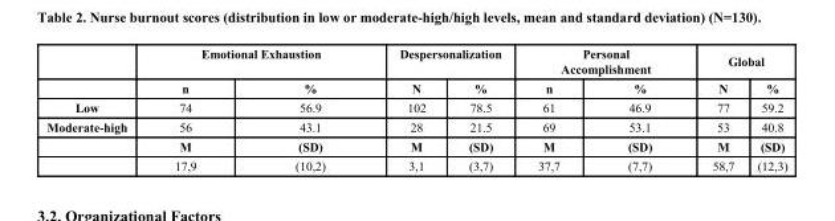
<table><thead><tr><td rowspan="2"></td><td colspan="2">Emotional Exhaustion</td><td colspan="2">Despersonalization</td><td colspan="2">Personal Accomplishment</td><td colspan="2">Global</td></tr><tr><td>n</td><td>%</td><td>N</td><td>%</td><td>n</td><td>%</td><td>N</td><td>%</td></tr></thead><tbody><tr><td>Low</td><td>74</td><td>56.9</td><td>102</td><td>78.5</td><td>61</td><td>46.9</td><td>77</td><td>59.2</td></tr><tr><td rowspan="3">Moderate-high</td><td>56</td><td>43.1</td><td>28</td><td>21.5</td><td>69</td><td>53.1</td><td>53</td><td>40.8</td></tr><tr><td>M</td><td>(SD)</td><td>M</td><td>(SD)</td><td>M</td><td>(SD)</td><td>M</td><td>(SD)</td></tr><tr><td>17,9</td><td>(10,2)</td><td>3,1</td><td>(3,7)</td><td>37,7</td><td>(7,7)</td><td>58,7</td><td>(12,3)</td></tr></tbody></table>